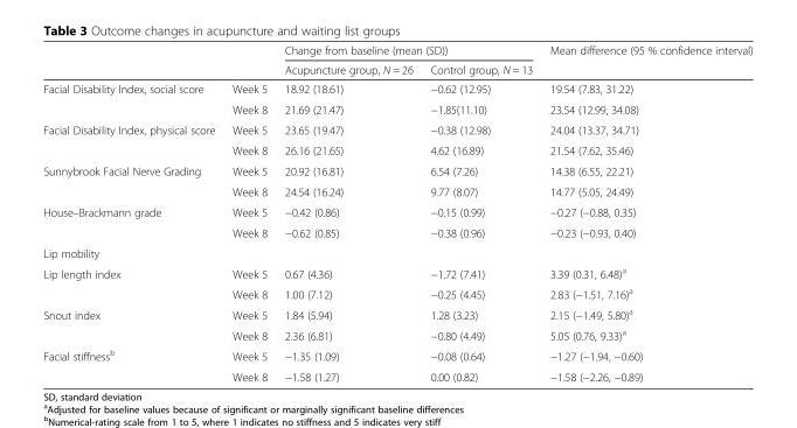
<table><thead><tr><td rowspan="2"></td><td rowspan="2"></td><td colspan="2">Change from baseline (mean (SD))</td><td rowspan="2">Mean difference (95 % confidence interval)</td></tr><tr><td>Acupuncture group, N = 26</td><td>Control group, N = 13</td></tr></thead><tbody><tr><td rowspan="2">Facial Disability Index, social score</td><td>Week 5</td><td>18.92 (18.61)</td><td>−0.62 (12.95)</td><td>19.54 (7.83, 31.22)</td></tr><tr><td>Week 8</td><td>21.69 (21.47)</td><td>−1.85(11.10)</td><td>23.54 (12.99, 34.08)</td></tr><tr><td rowspan="2">Facial Disability Index, physical score</td><td>Week 5</td><td>23.65 (19.47)</td><td>−0.38 (12.98)</td><td>24.04 (13.37, 34.71)</td></tr><tr><td>Week 8</td><td>26.16 (21.65)</td><td>4.62 (16.89)</td><td>21.54 (7.62, 35.46)</td></tr><tr><td rowspan="2">Sunnybrook Facial Nerve Grading</td><td>Week 5</td><td>20.92 (16.81)</td><td>6.54 (7.26)</td><td>14.38 (6.55, 22.21)</td></tr><tr><td>Week 8</td><td>24.54 (16.24)</td><td>9.77 (8.07)</td><td>14.77 (5.05, 24.49)</td></tr><tr><td rowspan="2">House–Brackmann grade</td><td>Week 5</td><td>−0.42 (0.86)</td><td>−0.15 (0.99)</td><td>−0.27 (−0.88, 0.35)</td></tr><tr><td>Week 8</td><td>−0.62 (0.85)</td><td>−0.38 (0.96)</td><td>−0.23 (−0.93, 0.40)</td></tr><tr><td colspan="5">Lip mobility</td></tr><tr><td rowspan="2">Lip length index</td><td>Week 5</td><td>0.67 (4.36)</td><td>−1.72 (7.41)</td><td>3.39 (0.31, 6.48)<sup>a</sup></td></tr><tr><td>Week 8</td><td>1.00 (7.12)</td><td>−0.25 (4.45)</td><td>2.83 (−1.51, 7.16)<sup>a</sup></td></tr><tr><td rowspan="2">Snout index</td><td>Week 5</td><td>1.84 (5.94)</td><td>1.28 (3.23)</td><td>2.15 (−1.49, 5.80)<sup>a</sup></td></tr><tr><td>Week 8</td><td>2.36 (6.81)</td><td>−0.80 (4.49)</td><td>5.05 (0.76, 9.33)<sup>a</sup></td></tr><tr><td rowspan="2">Facial stiffness<sup>b</sup></td><td>Week 5</td><td>−1.35 (1.09)</td><td>−0.08 (0.64)</td><td>−1.27 (−1.94, −0.60)</td></tr><tr><td>Week 8</td><td>−1.58 (1.27)</td><td>0.00 (0.82)</td><td>−1.58 (−2.26, −0.89)</td></tr></tbody></table>